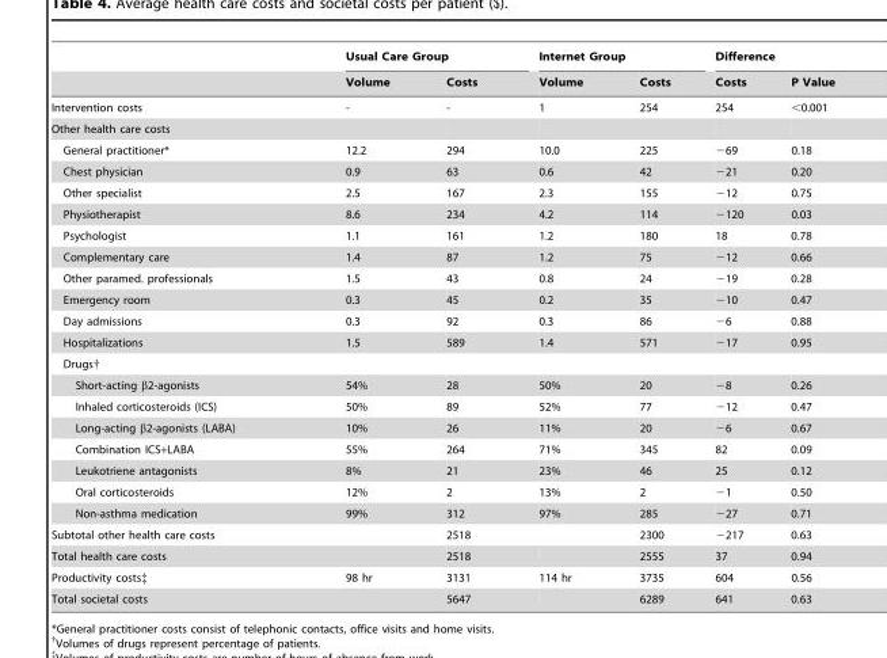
<table><thead><tr><td rowspan="2"></td><td colspan="2">Usual Care Group</td><td colspan="2">Internet Group</td><td colspan="2">Difference</td></tr><tr><td>Volume</td><td>Costs</td><td>Volume</td><td>Costs</td><td>Costs</td><td>P Value</td></tr></thead><tbody><tr><td>Intervention costs</td><td>-</td><td>-</td><td>1</td><td>254</td><td>254</td><td>&lt;0.001</td></tr><tr><td colspan="7">Other health care costs</td></tr><tr><td>General practitioner*</td><td>12.2</td><td>294</td><td>10.0</td><td>225</td><td>−69</td><td>0.18</td></tr><tr><td>Chest physician</td><td>0.9</td><td>63</td><td>0.6</td><td>42</td><td>−21</td><td>0.20</td></tr><tr><td>Other specialist</td><td>2.5</td><td>167</td><td>2.3</td><td>155</td><td>−12</td><td>0.75</td></tr><tr><td>Physiotherapist</td><td>8.6</td><td>234</td><td>4.2</td><td>114</td><td>−120</td><td>0.03</td></tr><tr><td>Psychologist</td><td>1.1</td><td>161</td><td>1.2</td><td>180</td><td>18</td><td>0.78</td></tr><tr><td>Complementary care</td><td>1.4</td><td>87</td><td>1.2</td><td>75</td><td>−12</td><td>0.66</td></tr><tr><td>Other paramed. professionals</td><td>1.5</td><td>43</td><td>0.8</td><td>24</td><td>−19</td><td>0.28</td></tr><tr><td>Emergency room</td><td>0.3</td><td>45</td><td>0.2</td><td>35</td><td>−10</td><td>0.47</td></tr><tr><td>Day admissions</td><td>0.3</td><td>92</td><td>0.3</td><td>86</td><td>−6</td><td>0.88</td></tr><tr><td>Hospitalizations</td><td>1.5</td><td>589</td><td>1.4</td><td>571</td><td>−17</td><td>0.95</td></tr><tr><td colspan="7">Drugs†</td></tr><tr><td>Short-acting β2-agonists</td><td>54%</td><td>28</td><td>50%</td><td>20</td><td>−8</td><td>0.26</td></tr><tr><td>Inhaled corticosteroids (ICS)</td><td>50%</td><td>89</td><td>52%</td><td>77</td><td>−12</td><td>0.47</td></tr><tr><td>Long-acting β2-agonists (LABA)</td><td>10%</td><td>26</td><td>11%</td><td>20</td><td>−6</td><td>0.67</td></tr><tr><td>Combination ICS+LABA</td><td>55%</td><td>264</td><td>71%</td><td>345</td><td>82</td><td>0.09</td></tr><tr><td>Leukotriene antagonists</td><td>8%</td><td>21</td><td>23%</td><td>46</td><td>25</td><td>0.12</td></tr><tr><td>Oral corticosteroids</td><td>12%</td><td>2</td><td>13%</td><td>2</td><td>−1</td><td>0.50</td></tr><tr><td>Non-asthma medication</td><td>99%</td><td>312</td><td>97%</td><td>285</td><td>−27</td><td>0.71</td></tr><tr><td>Subtotal other health care costs</td><td></td><td>2518</td><td></td><td>2300</td><td>−217</td><td>0.63</td></tr><tr><td>Total health care costs</td><td></td><td>2518</td><td></td><td>2555</td><td>37</td><td>0.94</td></tr><tr><td>Productivity costs‡</td><td>98 hr</td><td>3131</td><td>114 hr</td><td>3735</td><td>604</td><td>0.56</td></tr><tr><td>Total societal costs</td><td></td><td>5647</td><td></td><td>6289</td><td>641</td><td>0.63</td></tr></tbody></table>